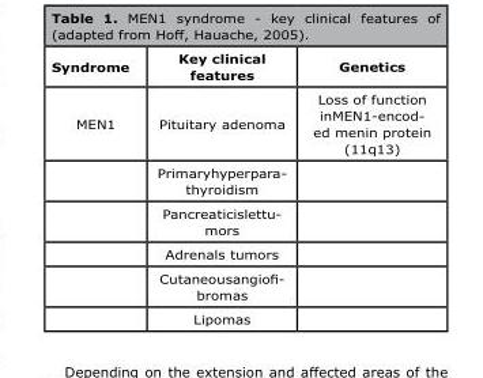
<table><thead><tr><td>Syndrome</td><td>Key clinical features</td><td>Genetics</td></tr></thead><tbody><tr><td rowspan="6">MEN1</td><td>Pituitary adenoma</td><td>Loss of function inMEN1-encod- ed menin protein (11q13)</td></tr><tr><td>Primaryhyperpara- thyroidism</td><td></td></tr><tr><td>Pancreaticislettu- mors</td><td></td></tr><tr><td>Adrenals tumors</td><td></td></tr><tr><td>Cutaneousangiofi- bromas</td><td></td></tr><tr><td>Lipomas</td><td></td></tr></tbody></table>